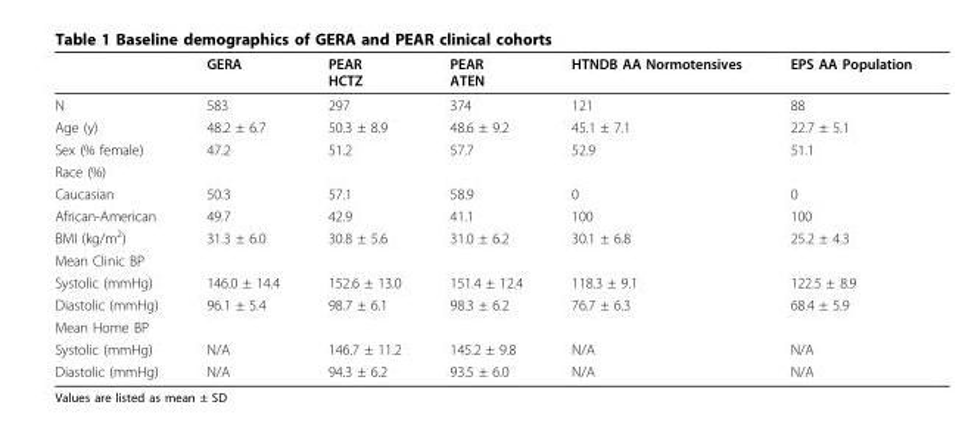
<table><thead><tr><td></td><td>GERA</td><td>PEAR HCTZ</td><td>PEAR ATEN</td><td>HTNDB AA Normotensives</td><td>EPS AA Population</td></tr></thead><tbody><tr><td>N</td><td>583</td><td>297</td><td>374</td><td>121</td><td>88</td></tr><tr><td>Age (y)</td><td>48.2 ± 6.7</td><td>50.3 ± 8.9</td><td>48.6 ± 9.2</td><td>45.1 ± 7.1</td><td>22.7 ± 5.1</td></tr><tr><td>Sex (% female)</td><td>47.2</td><td>51.2</td><td>57.7</td><td>52.9</td><td>51.1</td></tr><tr><td colspan="6">Race (%)</td></tr><tr><td>Caucasian</td><td>50.3</td><td>57.1</td><td>58.9</td><td>0</td><td>0</td></tr><tr><td>African-American</td><td>49.7</td><td>42.9</td><td>41.1</td><td>100</td><td>100</td></tr><tr><td>BMI (kg/m<sup>2</sup>)</td><td>31.3 ± 6.0</td><td>30.8 ± 5.6</td><td>31.0 ± 6.2</td><td>30.1 ± 6.8</td><td>25.2 ± 4.3</td></tr><tr><td colspan="6">Mean Clinic BP</td></tr><tr><td>Systolic (mmHg)</td><td>146.0 ± 14.4</td><td>152.6 ± 13.0</td><td>151.4 ± 12.4</td><td>118.3 ± 9.1</td><td>122.5 ± 8.9</td></tr><tr><td>Diastolic (mmHg)</td><td>96.1 ± 5.4</td><td>98.7 ± 6.1</td><td>98.3 ± 6.2</td><td>76.7 ± 6.3</td><td>68.4 ± 5.9</td></tr><tr><td colspan="6">Mean Home BP</td></tr><tr><td>Systolic (mmHg)</td><td>N/A</td><td>146.7 ± 11.2</td><td>145.2 ± 9.8</td><td>N/A</td><td>N/A</td></tr><tr><td>Diastolic (mmHg)</td><td>N/A</td><td>94.3 ± 6.2</td><td>93.5 ± 6.0</td><td>N/A</td><td>N/A</td></tr></tbody></table>